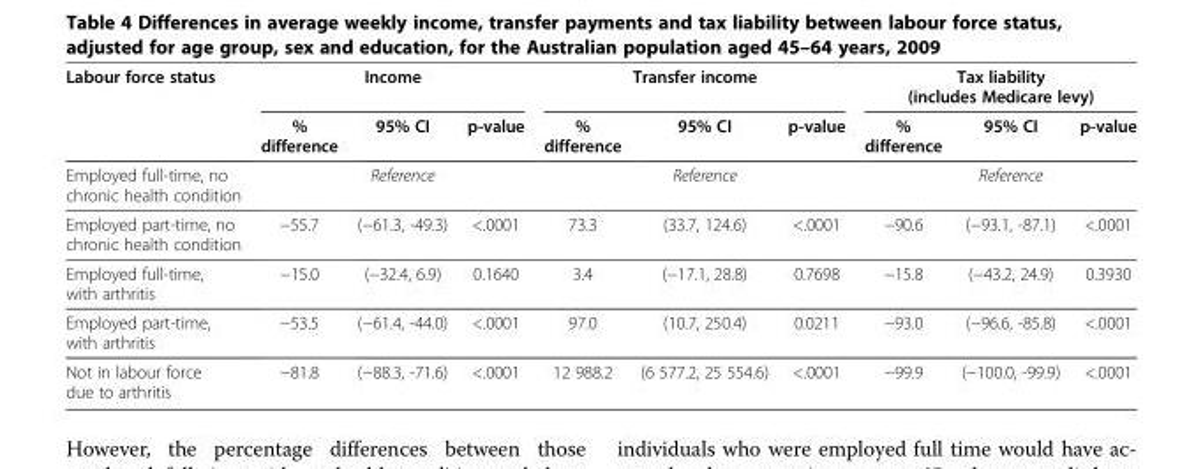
<table><thead><tr><td rowspan="2">Labour force status</td><td colspan="3">Income</td><td colspan="3">Transfer income</td><td colspan="3">Tax liability (includes Medicare levy)</td></tr><tr><td>% difference</td><td>95% CI</td><td>p-value</td><td>% difference</td><td>95% CI</td><td>p-value</td><td>% difference</td><td>95% CI</td><td>p-value</td></tr></thead><tbody><tr><td>Employed full-time, no chronic health condition</td><td></td><td>Reference</td><td></td><td></td><td>Reference</td><td></td><td></td><td>Reference</td><td></td></tr><tr><td>Employed part-time, no chronic health condition</td><td>−55.7</td><td>(−61.3, -49.3)</td><td>&lt;.0001</td><td>73.3</td><td>(33.7, 124.6)</td><td>&lt;.0001</td><td>−90.6</td><td>(−93.1, -87.1)</td><td>&lt;.0001</td></tr><tr><td>Employed full-time, with arthritis</td><td>−15.0</td><td>(−32.4, 6.9)</td><td>0.1640</td><td>3.4</td><td>(−17.1, 28.8)</td><td>0.7698</td><td>−15.8</td><td>(−43.2, 24.9)</td><td>0.3930</td></tr><tr><td>Employed part-time, with arthritis</td><td>−53.5</td><td>(−61.4, -44.0)</td><td>&lt;.0001</td><td>97.0</td><td>(10.7, 250.4)</td><td>0.0211</td><td>−93.0</td><td>(−96.6, -85.8)</td><td>&lt;.0001</td></tr><tr><td>Not in labour force due to arthritis</td><td>−81.8</td><td>(−88.3, -71.6)</td><td>&lt;.0001</td><td>12 988.2</td><td>(6 577.2, 25 554.6)</td><td>&lt;.0001</td><td>−99.9</td><td>(−100.0, -99.9)</td><td>&lt;.0001</td></tr></tbody></table>